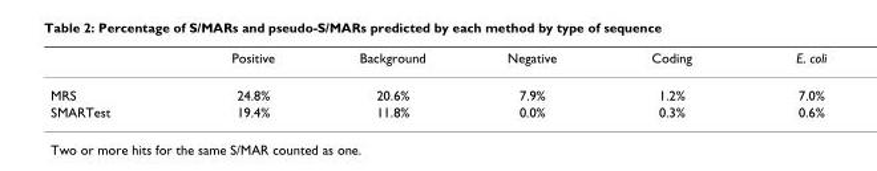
<table><thead><tr><td></td><td>Positive</td><td>Background</td><td>Negative</td><td>Coding</td><td>E. coli</td></tr></thead><tbody><tr><td>MRS</td><td>24.8%</td><td>20.6%</td><td>7.9%</td><td>1.2%</td><td>7.0%</td></tr><tr><td>SMARTest</td><td>19.4%</td><td>11.8%</td><td>0.0%</td><td>0.3%</td><td>0.6%</td></tr></tbody></table>